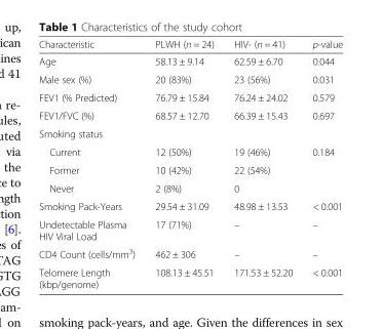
<table><thead><tr><td>Characteristic</td><td>PLWH (n = 24)</td><td>HIV- (n = 41)</td><td>p-value</td></tr></thead><tbody><tr><td>Age</td><td>58.13 ± 9.14</td><td>62.59 ± 6.70</td><td>0.044</td></tr><tr><td>Male sex (%)</td><td>20 (83%)</td><td>23 (56%)</td><td>0.031</td></tr><tr><td>FEV1 (% Predicted)</td><td>76.79 ± 15.84</td><td>76.24 ± 24.02</td><td>0.579</td></tr><tr><td>FEV1/FVC (%)</td><td>68.57 ± 12.70</td><td>66.39 ± 15.43</td><td>0.697</td></tr><tr><td colspan="4">Smoking status</td></tr><tr><td>Current</td><td>12 (50%)</td><td>19 (46%)</td><td rowspan="3">0.184</td></tr><tr><td>Former</td><td>10 (42%)</td><td>22 (54%)</td></tr><tr><td>Never</td><td>2 (8%)</td><td>0</td></tr><tr><td>Smoking Pack-Years</td><td>29.54 ± 31.09</td><td>48.98 ± 13.53</td><td>&lt; 0.001</td></tr><tr><td>Undetectable Plasma HIV Viral Load</td><td>17 (71%)</td><td>–</td><td>–</td></tr><tr><td>CD4 Count (cells/mm<sup>3</sup>)</td><td>462 ± 306</td><td>–</td><td>–</td></tr><tr><td>Telomere Length (kbp/genome)</td><td>108.13 ± 45.51</td><td>171.53 ± 52.20</td><td>&lt; 0.001</td></tr></tbody></table>